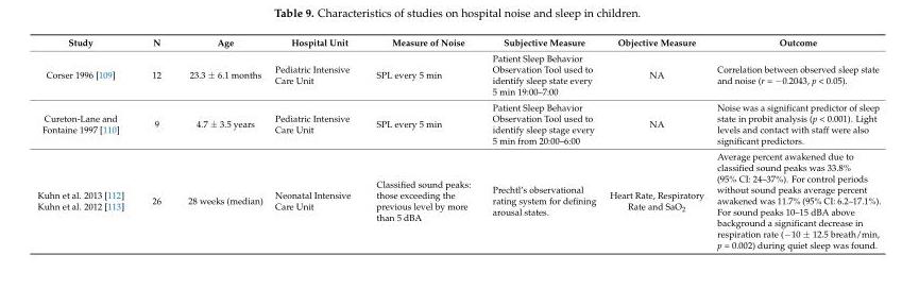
<table><thead><tr><td>Study</td><td>N</td><td>Age</td><td>Hospital Unit</td><td>Measure of Noise</td><td>Subjective Measure</td><td>Objective Measure</td><td>Outcome</td></tr></thead><tbody><tr><td>Corser 1996 [109]</td><td>12</td><td>23.3 ± 6.1 months</td><td>Pediatric Intensive Care Unit</td><td>SPL every 5 min</td><td>Patient Sleep Behavior Observation Tool used to identify sleep state every 5 min 19:00–7:00</td><td>NA</td><td>Correlation between observed sleep state and noise (r = −0.2043, p &lt; 0.05).</td></tr><tr><td>Cureton-Lane and Fontaine 1997 [110]</td><td>9</td><td>4.7 ± 3.5 years</td><td>Pediatric Intensive Care Unit</td><td>SPL every 5 min</td><td>Patient Sleep Behavior Observation Tool used to identify sleep stage every 5 min from 20:00–6:00</td><td>NA</td><td>Noise was a significant predictor of sleep state in probit analysis (p &lt; 0.001). Light levels and contact with staff were also significant predictors.</td></tr><tr><td>Kuhn et al. 2013 [112] Kuhn et al. 2012 [113]</td><td>26</td><td>28 weeks (median)</td><td>Neonatal Intensive Care Unit</td><td>Classified sound peaks: those exceeding the previous level by more than 5 dBA</td><td>Prechtl’s observational rating system for defining arousal states.</td><td>Heart Rate, Respiratory Rate and SaO<sub>2</sub></td><td>Average percent awakened due to classified sound peaks was 33.8% (95% CI: 24–37%). For control periods without sound peaks average percent awakened was 11.7% (95% CI: 6.2–17.1%). For sound peaks 10–15 dBA above background a significant decrease in respiration rate (−10 ± 12.5 breath/min, p = 0.002) during quiet sleep was found.</td></tr></tbody></table>